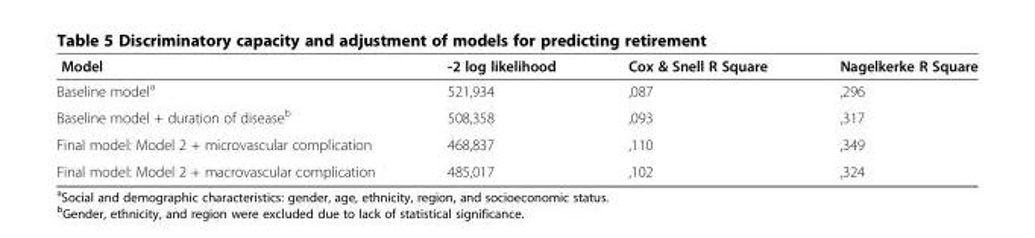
<table><thead><tr><td>Model</td><td>-2 log likelihood</td><td>Cox &amp; Snell R Square</td><td>Nagelkerke R Square</td></tr></thead><tbody><tr><td>Baseline model<sup>a</sup></td><td>521,934</td><td>,087</td><td>,296</td></tr><tr><td>Baseline model + duration of disease<sup>b</sup></td><td>508,358</td><td>,093</td><td>,317</td></tr><tr><td>Final model: Model 2 + microvascular complication</td><td>468,837</td><td>,110</td><td>,349</td></tr><tr><td>Final model: Model 2 + macrovascular complication</td><td>485,017</td><td>,102</td><td>,324</td></tr></tbody></table>